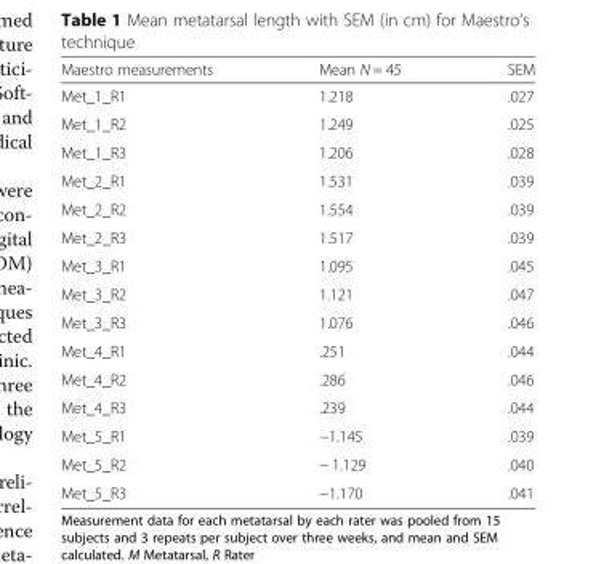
<table><thead><tr><td>Maestro measurements</td><td>Mean N = 45</td><td>SEM</td></tr></thead><tbody><tr><td>Met_1_R1</td><td>1.218</td><td>.027</td></tr><tr><td>Met_1_R2</td><td>1.249</td><td>.025</td></tr><tr><td>Met_1_R3</td><td>1.206</td><td>.028</td></tr><tr><td>Met_2_R1</td><td>1.531</td><td>.039</td></tr><tr><td>Met_2_R2</td><td>1.554</td><td>.039</td></tr><tr><td>Met_2_R3</td><td>1.517</td><td>.039</td></tr><tr><td>Met_3_R1</td><td>1.095</td><td>.045</td></tr><tr><td>Met_3_R2</td><td>1.121</td><td>.047</td></tr><tr><td>Met_3_R3</td><td>1.076</td><td>.046</td></tr><tr><td>Met_4_R1</td><td>.251</td><td>.044</td></tr><tr><td>Met_4_R2</td><td>.286</td><td>.046</td></tr><tr><td>Met_4_R3</td><td>.239</td><td>.044</td></tr><tr><td>Met_5_R1</td><td>−1.145</td><td>.039</td></tr><tr><td>Met_5_R2</td><td>− 1.129</td><td>.040</td></tr><tr><td>Met_5_R3</td><td>−1.170</td><td>.041</td></tr></tbody></table>